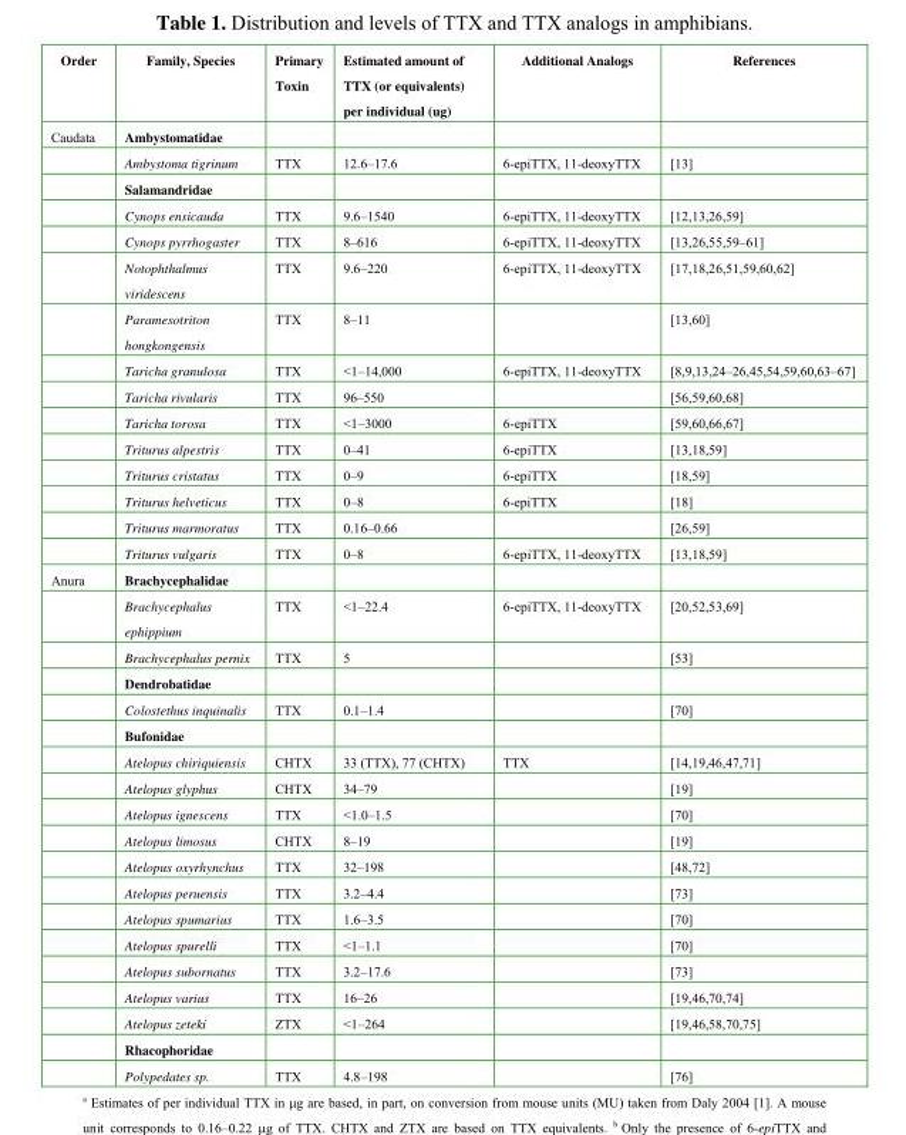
<table><thead><tr><td>Order</td><td>Family, Species</td><td>Primary Toxin</td><td>Estimated amount of TTX (or equivalents) per individual (ug)</td><td>Additional Analogs</td><td>References</td></tr></thead><tbody><tr><td rowspan="15">Caudata</td><td>Ambystomatidae</td><td></td><td></td><td></td><td></td></tr><tr><td>Ambystoma tigrinum</td><td>TTX</td><td>12.6–17.6</td><td>6-epiTTX, 11-deoxyTTX</td><td>[13]</td></tr><tr><td>Salamandridae</td><td></td><td></td><td></td><td></td></tr><tr><td>Cynops ensicauda</td><td>TTX</td><td>9.6–1540</td><td>6-epiTTX, 11-deoxyTTX</td><td>[12,13,26,59]</td></tr><tr><td>Cynops pyrrhogaster</td><td>TTX</td><td>8–616</td><td>6-epiTTX, 11-deoxyTTX</td><td>[13,26,55,59–61]</td></tr><tr><td>Notophthalmus viridescens</td><td>TTX</td><td>9.6–220</td><td>6-epiTTX, 11-deoxyTTX</td><td>[17,18,26,51,59,60,62]</td></tr><tr><td>Paramesotriton hongkongensis</td><td>TTX</td><td>8–11</td><td></td><td>[13,60]</td></tr><tr><td>Taricha granulosa</td><td>TTX</td><td>&lt;1–14,000</td><td>6-epiTTX, 11-deoxyTTX</td><td>[8,9,13,24–26,45,54,59,60,63–67]</td></tr><tr><td>Taricha rivularis</td><td>TTX</td><td>96–550</td><td></td><td>[56,59,60,68]</td></tr><tr><td>Taricha torosa</td><td>TTX</td><td>&lt;1–3000</td><td>6-epiTTX</td><td>[59,60,66,67]</td></tr><tr><td>Triturus alpestris</td><td>TTX</td><td>0–41</td><td>6-epiTTX</td><td>[13,18,59]</td></tr><tr><td>Triturus cristatus</td><td>TTX</td><td>0–9</td><td>6-epiTTX</td><td>[18,59]</td></tr><tr><td>Triturus helveticus</td><td>TTX</td><td>0–8</td><td>6-epiTTX</td><td>[18]</td></tr><tr><td>Triturus marmoratus</td><td>TTX</td><td>0.16–0.66</td><td></td><td>[26,59]</td></tr><tr><td>Triturus vulgaris</td><td>TTX</td><td>0–8</td><td>6-epiTTX, 11-deoxyTTX</td><td>[13,18,59]</td></tr><tr><td rowspan="19">Anura</td><td>Brachycephalidae</td><td></td><td></td><td></td><td></td></tr><tr><td>Brachycephalus ephippium</td><td>TTX</td><td>&lt;1–22.4</td><td>6-epiTTX, 11-deoxyTTX</td><td>[20,52,53,69]</td></tr><tr><td>Brachycephalus pernix</td><td>TTX</td><td>5</td><td></td><td>[53]</td></tr><tr><td>Dendrobatidae</td><td></td><td></td><td></td><td></td></tr><tr><td>Colostethus inquinalis</td><td>TTX</td><td>0.1–1.4</td><td></td><td>[70]</td></tr><tr><td>Bufonidae</td><td></td><td></td><td></td><td></td></tr><tr><td>Atelopus chiriquiensis</td><td>CHTX</td><td>33 (TTX), 77 (CHTX)</td><td>TTX</td><td>[14,19,46,47,71]</td></tr><tr><td>Atelopus glyphus</td><td>CHTX</td><td>34–79</td><td></td><td>[19]</td></tr><tr><td>Atelopus ignescens</td><td>TTX</td><td>&lt;1.0–1.5</td><td></td><td>[70]</td></tr><tr><td>Atelopus limosus</td><td>CHTX</td><td>8–19</td><td></td><td>[19]</td></tr><tr><td>Atelopus oxyrhynchus</td><td>TTX</td><td>32–198</td><td></td><td>[48,72]</td></tr><tr><td>Atelopus peruensis</td><td>TTX</td><td>3.2–4.4</td><td></td><td>[73]</td></tr><tr><td>Atelopus spumarius</td><td>TTX</td><td>1.6–3.5</td><td></td><td>[70]</td></tr><tr><td>Atelopus spurelli</td><td>TTX</td><td>&lt;1–1.1</td><td></td><td>[70]</td></tr><tr><td>Atelopus subornatus</td><td>TTX</td><td>3.2–17.6</td><td></td><td>[73]</td></tr><tr><td>Atelopus varius</td><td>TTX</td><td>16–26</td><td></td><td>[19,46,70,74]</td></tr><tr><td>Atelopus zeteki</td><td>ZTX</td><td>&lt;1–264</td><td></td><td>[19,46,58,70,75]</td></tr><tr><td>Rhacophoridae</td><td></td><td></td><td></td><td></td></tr><tr><td>Polypedates sp.</td><td>TTX</td><td>4.8–198</td><td></td><td>[76]</td></tr></tbody></table>